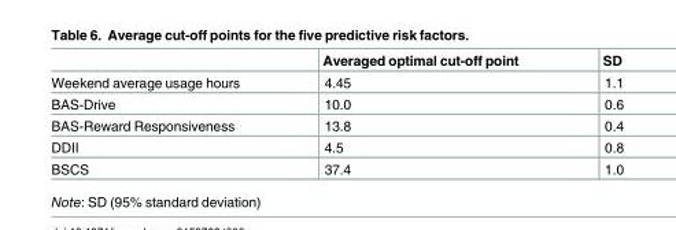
<table><thead><tr><td></td><td>Averaged optimal cut-off point</td><td>SD</td></tr></thead><tbody><tr><td>Weekend average usage hours</td><td>4.45</td><td>1.1</td></tr><tr><td>BAS-Drive</td><td>10.0</td><td>0.6</td></tr><tr><td>BAS-Reward Responsiveness</td><td>13.8</td><td>0.4</td></tr><tr><td>DDII</td><td>4.5</td><td>0.8</td></tr><tr><td>BSCS</td><td>37.4</td><td>1.0</td></tr></tbody></table>